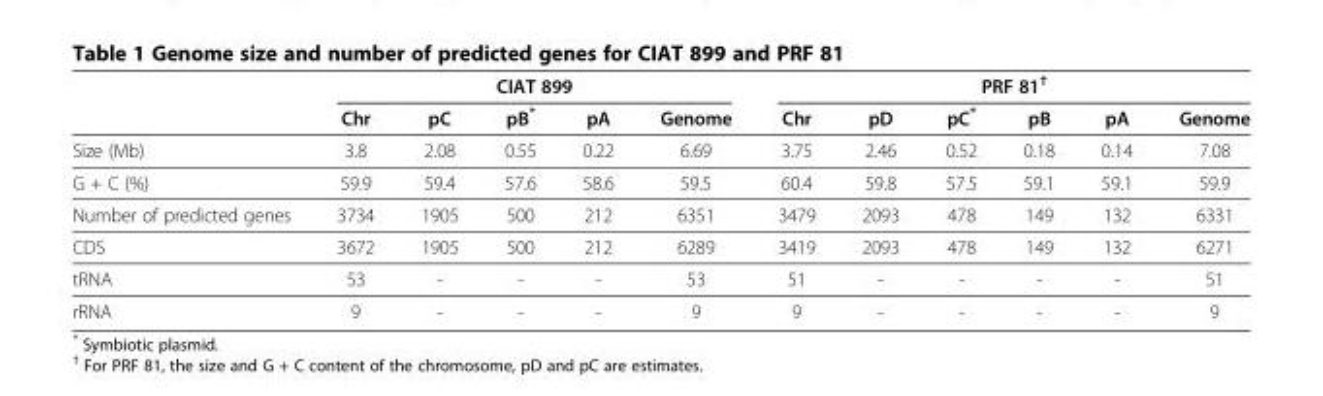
<table><thead><tr><td rowspan="2"></td><td colspan="5">CIAT 899</td><td colspan="6">PRF 81<sup>†</sup></td></tr><tr><td>Chr</td><td>pC</td><td>pB*</td><td>pA</td><td>Genome</td><td>Chr</td><td>pD</td><td>pC*</td><td>pB</td><td>pA</td><td>Genome</td></tr></thead><tbody><tr><td>Size (Mb)</td><td>3.8</td><td>2.08</td><td>0.55</td><td>0.22</td><td>6.69</td><td>3.75</td><td>2.46</td><td>0.52</td><td>0.18</td><td>0.14</td><td>7.08</td></tr><tr><td>G + C (%)</td><td>59.9</td><td>59.4</td><td>57.6</td><td>58.6</td><td>59.5</td><td>60.4</td><td>59.8</td><td>57.5</td><td>59.1</td><td>59.1</td><td>59.9</td></tr><tr><td>Number of predicted genes</td><td>3734</td><td>1905</td><td>500</td><td>212</td><td>6351</td><td>3479</td><td>2093</td><td>478</td><td>149</td><td>132</td><td>6331</td></tr><tr><td>CDS</td><td>3672</td><td>1905</td><td>500</td><td>212</td><td>6289</td><td>3419</td><td>2093</td><td>478</td><td>149</td><td>132</td><td>6271</td></tr><tr><td>tRNA</td><td>53</td><td>-</td><td>-</td><td>-</td><td>53</td><td>51</td><td>-</td><td>-</td><td>-</td><td>-</td><td>51</td></tr><tr><td>rRNA</td><td>9</td><td>-</td><td>-</td><td>-</td><td>9</td><td>9</td><td>-</td><td>-</td><td>-</td><td>-</td><td>9</td></tr></tbody></table>